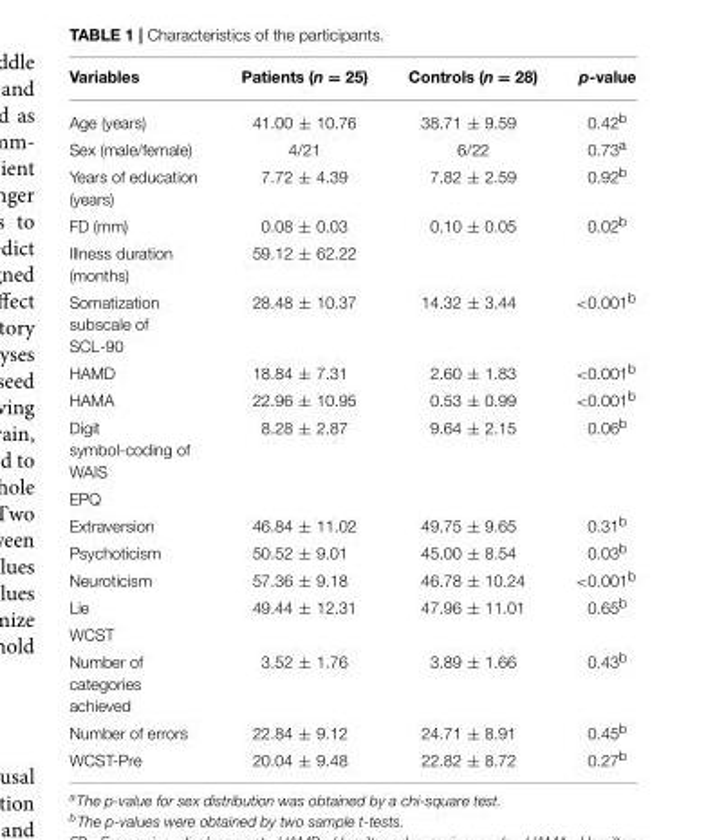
<table><thead><tr><td>Variables</td><td>Patients (n = 25)</td><td>Controls (n = 28)</td><td>p-value</td></tr></thead><tbody><tr><td>Age (years)</td><td>41.00 ± 10.76</td><td>38.71 ± 9.59</td><td>0.42<sup>b</sup></td></tr><tr><td>Sex (male/female)</td><td>4/21</td><td>6/22</td><td>0.73<sup>a</sup></td></tr><tr><td>Years of education (years)</td><td>7.72 ± 4.39</td><td>7.82 ± 2.59</td><td>0.92<sup>b</sup></td></tr><tr><td>FD (mm)</td><td>0.08 ± 0.03</td><td>0.10 ± 0.05</td><td>0.02<sup>b</sup></td></tr><tr><td>Illness duration (months)</td><td>59.12 ± 62.22</td><td></td><td></td></tr><tr><td>Somatization subscale of SCL-90</td><td>28.48 ± 10.37</td><td>14.32 ± 3.44</td><td>&lt;0.001<sup>b</sup></td></tr><tr><td>HAMD</td><td>18.84 ± 7.31</td><td>2.60 ± 1.83</td><td>&lt;0.001<sup>b</sup></td></tr><tr><td>HAMA</td><td>22.96 ± 10.95</td><td>0.53 ± 0.99</td><td>&lt;0.001<sup>b</sup></td></tr><tr><td>Digit symbol-coding of WAIS</td><td>8.28 ± 2.87</td><td>9.64 ± 2.15</td><td>0.06<sup>b</sup></td></tr><tr><td colspan="4">EPQ</td></tr><tr><td>Extraversion</td><td>46.84 ± 11.02</td><td>49.75 ± 9.65</td><td>0.31<sup>b</sup></td></tr><tr><td>Psychoticism</td><td>50.52 ± 9.01</td><td>45.00 ± 8.54</td><td>0.03<sup>b</sup></td></tr><tr><td>Neuroticism</td><td>57.36 ± 9.18</td><td>46.78 ± 10.24</td><td>&lt;0.001<sup>b</sup></td></tr><tr><td>Lie</td><td>49.44 ± 12.31</td><td>47.96 ± 11.01</td><td>0.65<sup>b</sup></td></tr><tr><td colspan="4">WCST</td></tr><tr><td>Number of categories achieved</td><td>3.52 ± 1.76</td><td>3.89 ± 1.66</td><td>0.43<sup>b</sup></td></tr><tr><td>Number of errors</td><td>22.84 ± 9.12</td><td>24.71 ± 8.91</td><td>0.45<sup>b</sup></td></tr><tr><td>WCST-Pre</td><td>20.04 ± 9.48</td><td>22.82 ± 8.72</td><td>0.27<sup>b</sup></td></tr></tbody></table>